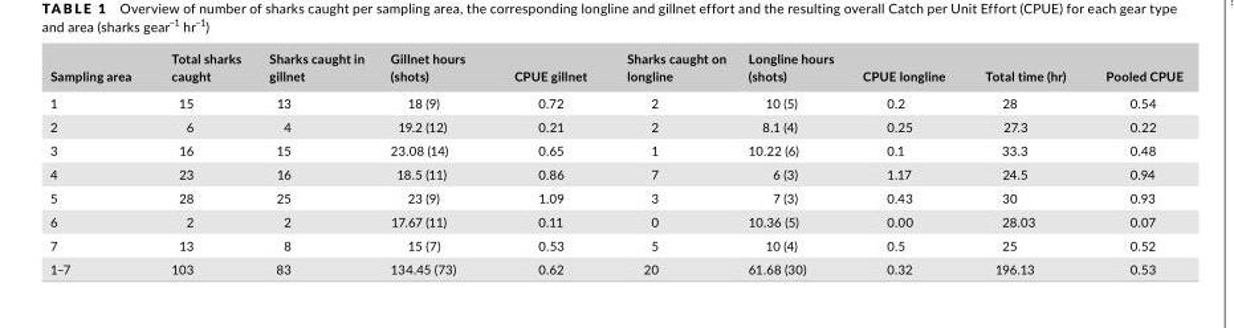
<table><thead><tr><td>Sampling area</td><td>Total sharks caught</td><td>Sharks caught in gillnet</td><td>Gillnet hours (shots)</td><td>CPUE gillnet</td><td>Sharks caught on longline</td><td>Longline hours (shots)</td><td>CPUE longline</td><td>Total time (hr)</td><td>Pooled CPUE</td></tr></thead><tbody><tr><td>1</td><td>15</td><td>13</td><td>18 (9)</td><td>0.72</td><td>2</td><td>10 (5)</td><td>0.2</td><td>28</td><td>0.54</td></tr><tr><td>2</td><td>6</td><td>4</td><td>19.2 (12)</td><td>0.21</td><td>2</td><td>8.1 (4)</td><td>0.25</td><td>27.3</td><td>0.22</td></tr><tr><td>3</td><td>16</td><td>15</td><td>23.08 (14)</td><td>0.65</td><td>1</td><td>10.22 (6)</td><td>0.1</td><td>33.3</td><td>0.48</td></tr><tr><td>4</td><td>23</td><td>16</td><td>18.5 (11)</td><td>0.86</td><td>7</td><td>6 (3)</td><td>1.17</td><td>24.5</td><td>0.94</td></tr><tr><td>5</td><td>28</td><td>25</td><td>23 (9)</td><td>1.09</td><td>3</td><td>7 (3)</td><td>0.43</td><td>30</td><td>0.93</td></tr><tr><td>6</td><td>2</td><td>2</td><td>17.67 (11)</td><td>0.11</td><td>0</td><td>10.36 (5)</td><td>0.00</td><td>28.03</td><td>0.07</td></tr><tr><td>7</td><td>13</td><td>8</td><td>15 (7)</td><td>0.53</td><td>5</td><td>10 (4)</td><td>0.5</td><td>25</td><td>0.52</td></tr><tr><td>1–7</td><td>103</td><td>83</td><td>134.45 (73)</td><td>0.62</td><td>20</td><td>61.68 (30)</td><td>0.32</td><td>196.13</td><td>0.53</td></tr></tbody></table>